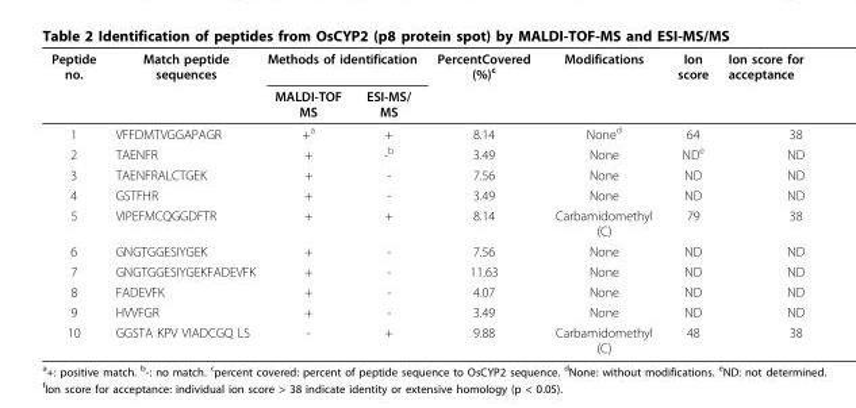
<table><thead><tr><td rowspan="2">Peptide no.</td><td rowspan="2">Match peptide sequences</td><td colspan="2">Methods of identification</td><td rowspan="2">PercentCovered (%)<sup>c</sup></td><td rowspan="2">Modifications</td><td rowspan="2">Ion score</td><td rowspan="2">Ion score for acceptance</td></tr><tr><td>MALDI-TOF MS</td><td>ESI-MS/ MS</td></tr></thead><tbody><tr><td>1</td><td>VFFDMTVGGAPAGR</td><td>+<sup>a</sup></td><td>+</td><td>8.14</td><td>None<sup>d</sup></td><td>64</td><td>38</td></tr><tr><td>2</td><td>TAENFR</td><td>+</td><td>-<sup>b</sup></td><td>3.49</td><td>None</td><td>ND<sup>e</sup></td><td>ND</td></tr><tr><td>3</td><td>TAENFRALCTGEK</td><td>+</td><td>-</td><td>7.56</td><td>None</td><td>ND</td><td>ND</td></tr><tr><td>4</td><td>GSTFHR</td><td>+</td><td>-</td><td>3.49</td><td>None</td><td>ND</td><td>ND</td></tr><tr><td>5</td><td>VIPEFMCQGGDFTR</td><td>+</td><td>+</td><td>8.14</td><td>Carbamidomethyl (C)</td><td>79</td><td>38</td></tr><tr><td>6</td><td>GNGTGGESIYGEK</td><td>+</td><td>-</td><td>7.56</td><td>None</td><td>ND</td><td>ND</td></tr><tr><td>7</td><td>GNGTGGESIYGEKFADEVFK</td><td>+</td><td>-</td><td>11.63</td><td>None</td><td>ND</td><td>ND</td></tr><tr><td>8</td><td>FADEVFK</td><td>+</td><td>-</td><td>4.07</td><td>None</td><td>ND</td><td>ND</td></tr><tr><td>9</td><td>HVVFGR</td><td>+</td><td>-</td><td>3.49</td><td>None</td><td>ND</td><td>ND</td></tr><tr><td>10</td><td>GGSTA KPV VIADCGQ LS</td><td>-</td><td>+</td><td>9.88</td><td>Carbamidomethyl (C)</td><td>48</td><td>38</td></tr></tbody></table>